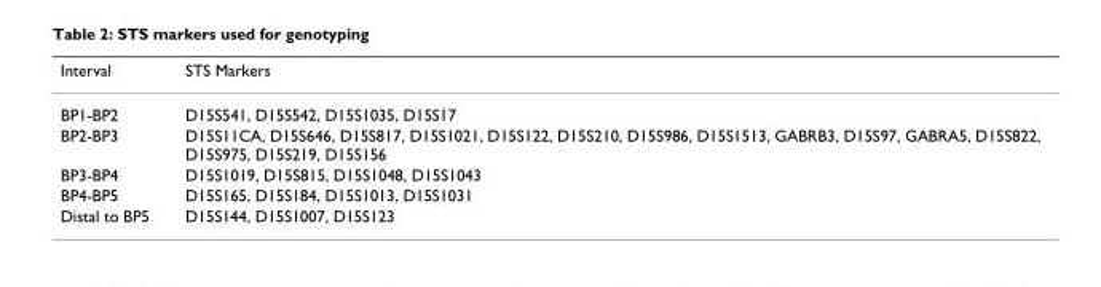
<table><thead><tr><td>Interval</td><td>STS Markers</td></tr></thead><tbody><tr><td>BP1-BP2</td><td>D15S541, D15S542, D15S1035, D15S17</td></tr><tr><td>BP2-BP3</td><td>D15S11CA, D15S646, D15S817, D15S1021, D15S122, D15S210, D15S986, D15S1513, GABRB3, D15S97, GABRA5, D15S822, D15S975, D15S219, D15S156</td></tr><tr><td>BP3-BP4</td><td>D15S1019, D15S815, D15S1048, D15S1043</td></tr><tr><td>BP4-BP5</td><td>D15S165, D15S184, D15S1013, D15S1031</td></tr><tr><td>Distal to BP5</td><td>D15S144, D15S1007, D15S123</td></tr></tbody></table>